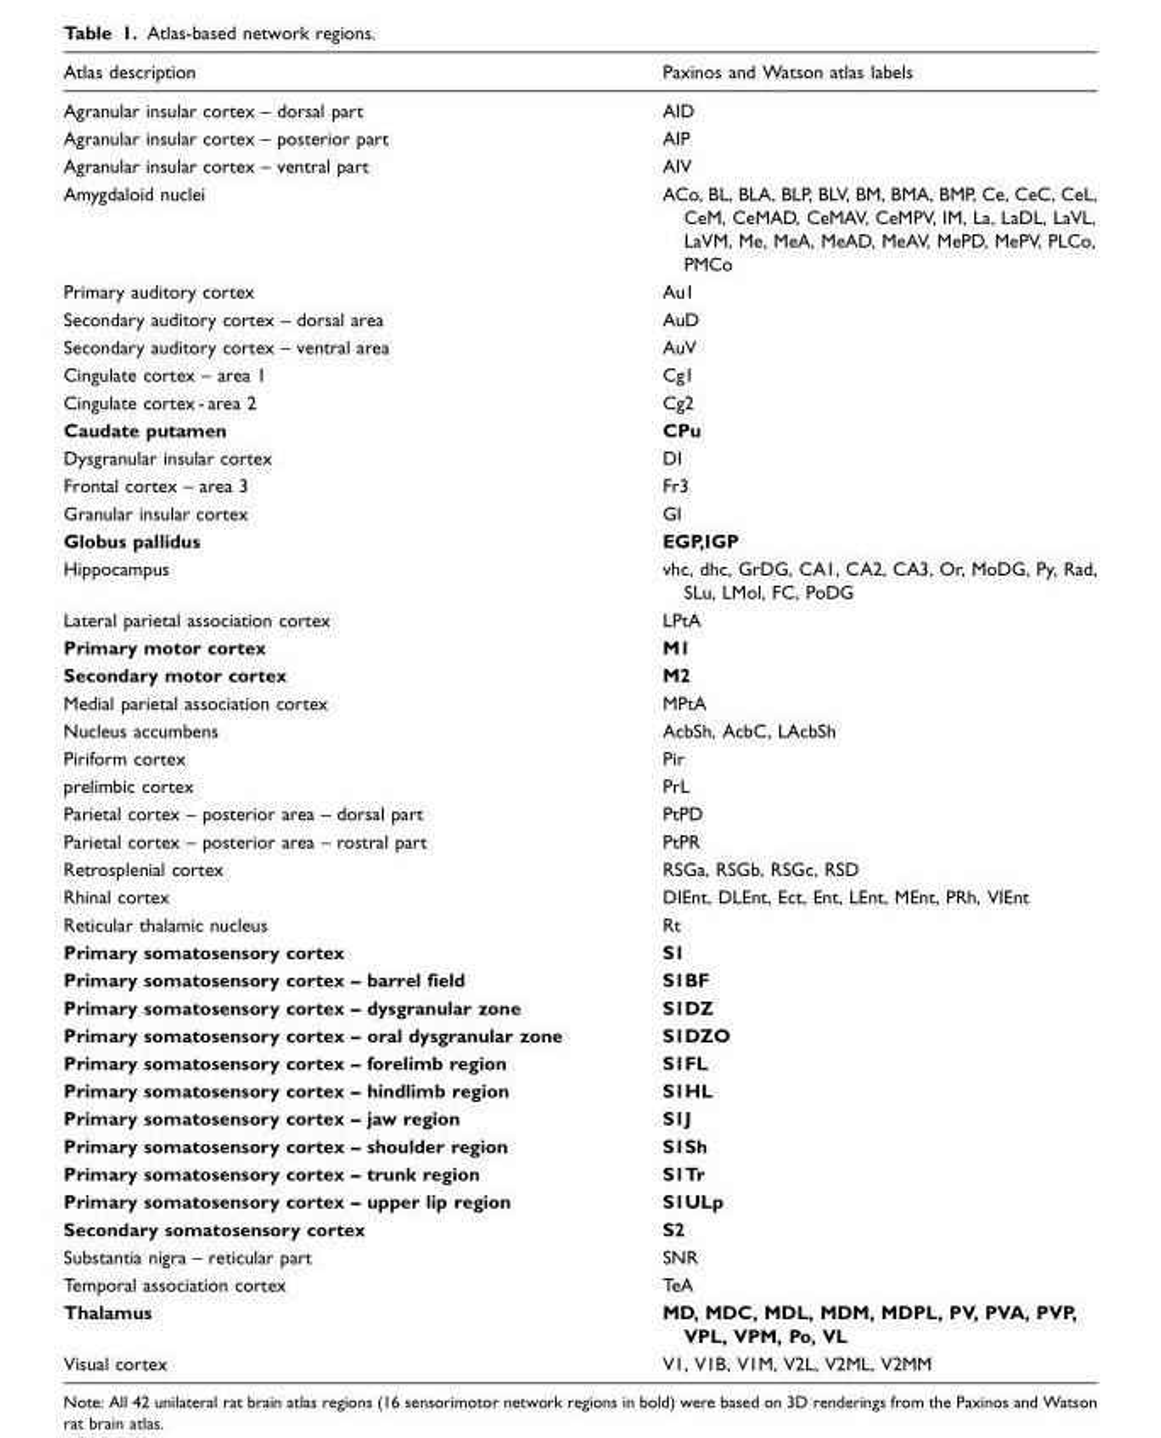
<table><thead><tr><td>Atlas description</td><td>Paxinos and Watson atlas labels</td></tr></thead><tbody><tr><td>Agranular insular cortex – dorsal part</td><td>AID</td></tr><tr><td>Agranular insular cortex – posterior part</td><td>AIP</td></tr><tr><td>Agranular insular cortex – ventral part</td><td>AIV</td></tr><tr><td>Amygdaloid nuclei</td><td>ACo, BL, BLA, BLP, BLV, BM, BMA, BMP, Ce, CeC, CeL, CeM, CeMAD, CeMAV, CeMPV, IM, La, LaDL, LaVL, LaVM, Me, MeA, MeAD, MeAV, MePD, MePV, PLCo, PMCo</td></tr><tr><td>Primary auditory cortex</td><td>Au1</td></tr><tr><td>Secondary auditory cortex – dorsal area</td><td>AuD</td></tr><tr><td>Secondary auditory cortex – ventral area</td><td>AuV</td></tr><tr><td>Cingulate cortex – area 1</td><td>Cg1</td></tr><tr><td>Cingulate cortex - area 2</td><td>Cg2</td></tr><tr><td>Caudate putamen</td><td>CPu</td></tr><tr><td>Dysgranular insular cortex</td><td>DI</td></tr><tr><td>Frontal cortex – area 3</td><td>Fr3</td></tr><tr><td>Granular insular cortex</td><td>GI</td></tr><tr><td>Globus pallidus</td><td>EGP,IGP</td></tr><tr><td>Hippocampus</td><td>vhc, dhc, GrDG, CA1, CA2, CA3, Or, MoDG, Py, Rad, SLu, LMol, FC, PoDG</td></tr><tr><td>Lateral parietal association cortex</td><td>LPtA</td></tr><tr><td>Primary motor cortex</td><td>M1</td></tr><tr><td>Secondary motor cortex</td><td>M2</td></tr><tr><td>Medial parietal association cortex</td><td>MPtA</td></tr><tr><td>Nucleus accumbens</td><td>AcbSh, AcbC, LAcbSh</td></tr><tr><td>Piriform cortex</td><td>Pir</td></tr><tr><td>prelimbic cortex</td><td>PrL</td></tr><tr><td>Parietal cortex – posterior area – dorsal part</td><td>PtPD</td></tr><tr><td>Parietal cortex – posterior area – rostral part</td><td>PtPR</td></tr><tr><td>Retrosplenial cortex</td><td>RSGa, RSGb, RSGc, RSD</td></tr><tr><td>Rhinal cortex</td><td>DIEnt, DLEnt, Ect, Ent, LEnt, MEnt, PRh, VIEnt</td></tr><tr><td>Reticular thalamic nucleus</td><td>Rt</td></tr><tr><td>Primary somatosensory cortex</td><td>S1</td></tr><tr><td>Primary somatosensory cortex – barrel field</td><td>S1BF</td></tr><tr><td>Primary somatosensory cortex – dysgranular zone</td><td>S1DZ</td></tr><tr><td>Primary somatosensory cortex – oral dysgranular zone</td><td>S1DZO</td></tr><tr><td>Primary somatosensory cortex – forelimb region</td><td>S1FL</td></tr><tr><td>Primary somatosensory cortex – hindlimb region</td><td>S1HL</td></tr><tr><td>Primary somatosensory cortex – jaw region</td><td>S1J</td></tr><tr><td>Primary somatosensory cortex – shoulder region</td><td>S1Sh</td></tr><tr><td>Primary somatosensory cortex – trunk region</td><td>S1Tr</td></tr><tr><td>Primary somatosensory cortex – upper lip region</td><td>S1ULp</td></tr><tr><td>Secondary somatosensory cortex</td><td>S2</td></tr><tr><td>Substantia nigra – reticular part</td><td>SNR</td></tr><tr><td>Temporal association cortex</td><td>TeA</td></tr><tr><td>Thalamus</td><td>MD, MDC, MDL, MDM, MDPL, PV, PVA, PVP, VPL, VPM, Po, VL</td></tr><tr><td>Visual cortex</td><td>V1, V1B, V1M, V2L, V2ML, V2MM</td></tr></tbody></table>